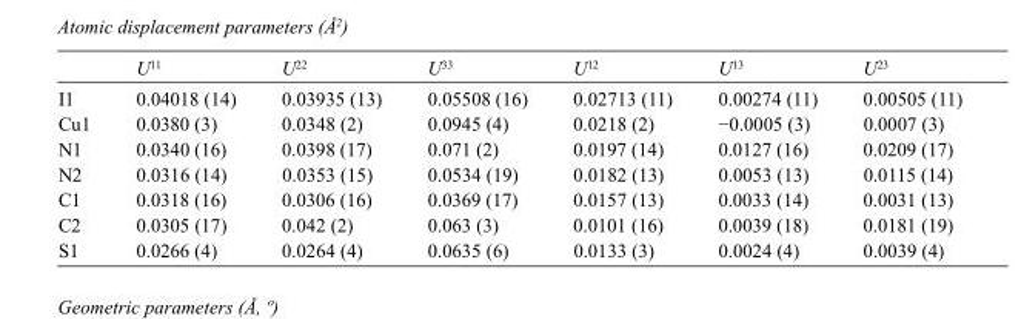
<table><thead><tr><td></td><td>U<sup>11</sup></td><td>U<sup>22</sup></td><td>U<sup>33</sup></td><td>U<sup>12</sup></td><td>U<sup>13</sup></td><td>U<sup>23</sup></td></tr></thead><tbody><tr><td>I1</td><td>0.04018 (14)</td><td>0.03935 (13)</td><td>0.05508 (16)</td><td>0.02713 (11)</td><td>0.00274 (11)</td><td>0.00505 (11)</td></tr><tr><td>Cu1</td><td>0.0380 (3)</td><td>0.0348 (2)</td><td>0.0945 (4)</td><td>0.0218 (2)</td><td>−0.0005 (3)</td><td>0.0007 (3)</td></tr><tr><td>N1</td><td>0.0340 (16)</td><td>0.0398 (17)</td><td>0.071 (2)</td><td>0.0197 (14)</td><td>0.0127 (16)</td><td>0.0209 (17)</td></tr><tr><td>N2</td><td>0.0316 (14)</td><td>0.0353 (15)</td><td>0.0534 (19)</td><td>0.0182 (13)</td><td>0.0053 (13)</td><td>0.0115 (14)</td></tr><tr><td>C1</td><td>0.0318 (16)</td><td>0.0306 (16)</td><td>0.0369 (17)</td><td>0.0157 (13)</td><td>0.0033 (14)</td><td>0.0031 (13)</td></tr><tr><td>C2</td><td>0.0305 (17)</td><td>0.042 (2)</td><td>0.063 (3)</td><td>0.0101 (16)</td><td>0.0039 (18)</td><td>0.0181 (19)</td></tr><tr><td>S1</td><td>0.0266 (4)</td><td>0.0264 (4)</td><td>0.0635 (6)</td><td>0.0133 (3)</td><td>0.0024 (4)</td><td>0.0039 (4)</td></tr></tbody></table>